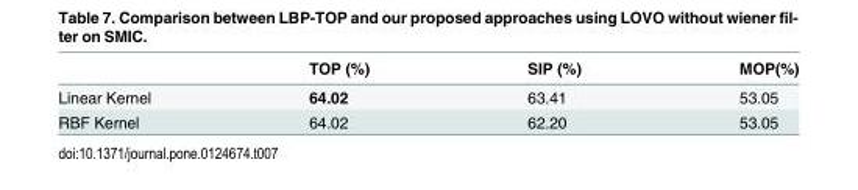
<table><thead><tr><td></td><td>TOP (%)</td><td>SIP (%)</td><td>MOP(%)</td></tr></thead><tbody><tr><td>Linear Kernel</td><td>64.02</td><td>63.41</td><td>53.05</td></tr><tr><td>RBF Kernel</td><td>64.02</td><td>62.20</td><td>53.05</td></tr></tbody></table>